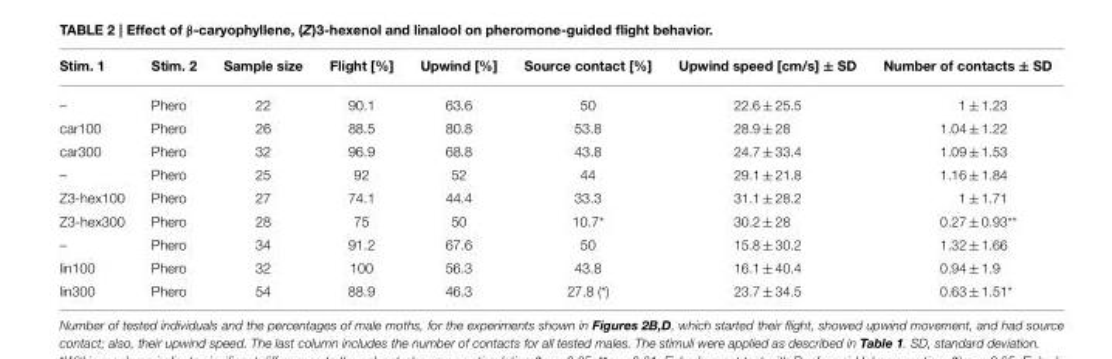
<table><thead><tr><td>Stim. 1</td><td>Stim. 2</td><td>Sample size</td><td>Flight [%]</td><td>Upwind [%]</td><td>Source contact [%]</td><td>Upwind speed [cm/s] ± SD</td><td>Number of contacts ± SD</td></tr></thead><tbody><tr><td>–</td><td>Phero</td><td>22</td><td>90.1</td><td>63.6</td><td>50</td><td>22.6 ± 25.5</td><td>1 ± 1.23</td></tr><tr><td>car100</td><td>Phero</td><td>26</td><td>88.5</td><td>80.8</td><td>53.8</td><td>28.9 ± 28</td><td>1.04 ± 1.22</td></tr><tr><td>car300</td><td>Phero</td><td>32</td><td>96.9</td><td>68.8</td><td>43.8</td><td>24.7 ± 33.4</td><td>1.09 ± 1.53</td></tr><tr><td>–</td><td>Phero</td><td>25</td><td>92</td><td>52</td><td>44</td><td>29.1 ± 21.8</td><td>1.16 ± 1.84</td></tr><tr><td>Z3-hex100</td><td>Phero</td><td>27</td><td>74.1</td><td>44.4</td><td>33.3</td><td>31.1 ± 28.2</td><td>1 ± 1.71</td></tr><tr><td>Z3-hex300</td><td>Phero</td><td>28</td><td>75</td><td>50</td><td>10.7*</td><td>30.2 ± 28</td><td>0.27 ± 0.93**</td></tr><tr><td>–</td><td>Phero</td><td>34</td><td>91.2</td><td>67.6</td><td>50</td><td>15.8 ± 30.2</td><td>1.32 ± 1.66</td></tr><tr><td>lin100</td><td>Phero</td><td>32</td><td>100</td><td>56.3</td><td>43.8</td><td>16.1 ± 40.4</td><td>0.94 ± 1.9</td></tr><tr><td>lin300</td><td>Phero</td><td>54</td><td>88.9</td><td>46.3</td><td>27.8 (*)</td><td>23.7 ± 34.5</td><td>0.63 ± 1.51*</td></tr></tbody></table>